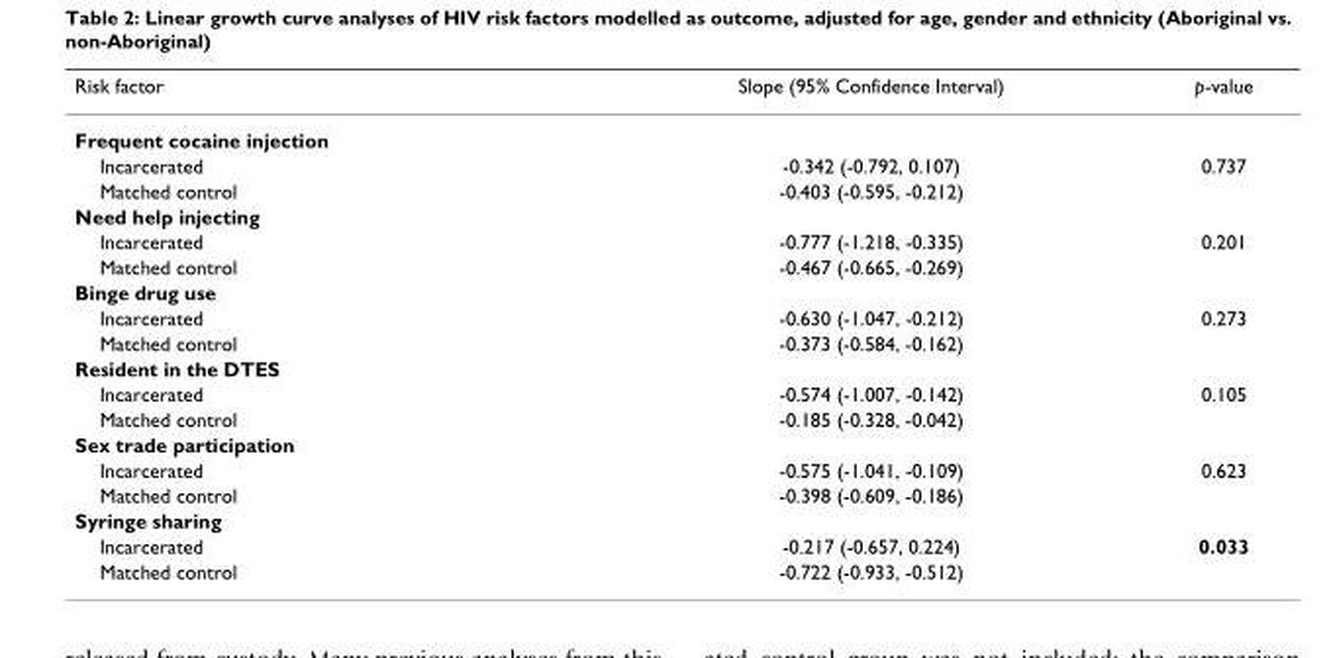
<table><thead><tr><td>Risk factor</td><td>Slope (95% Confidence Interval)</td><td>p-value</td></tr></thead><tbody><tr><td colspan="3">Frequent cocaine injection</td></tr><tr><td>Incarcerated</td><td>-0.342 (-0.792, 0.107)</td><td>0.737</td></tr><tr><td>Matched control</td><td>-0.403 (-0.595, -0.212)</td><td></td></tr><tr><td colspan="3">Need help injecting</td></tr><tr><td>Incarcerated</td><td>-0.777 (-1.218, -0.335)</td><td>0.201</td></tr><tr><td>Matched control</td><td>-0.467 (-0.665, -0.269)</td><td></td></tr><tr><td colspan="3">Binge drug use</td></tr><tr><td>Incarcerated</td><td>-0.630 (-1.047, -0.212)</td><td>0.273</td></tr><tr><td>Matched control</td><td>-0.373 (-0.584, -0.162)</td><td></td></tr><tr><td colspan="3">Resident in the DTES</td></tr><tr><td>Incarcerated</td><td>-0.574 (-1.007, -0.142)</td><td>0.105</td></tr><tr><td>Matched control</td><td>-0.185 (-0.328, -0.042)</td><td></td></tr><tr><td colspan="3">Sex trade participation</td></tr><tr><td>Incarcerated</td><td>-0.575 (-1.041, -0.109)</td><td>0.623</td></tr><tr><td>Matched control</td><td>-0.398 (-0.609, -0.186)</td><td></td></tr><tr><td colspan="3">Syringe sharing</td></tr><tr><td>Incarcerated</td><td>-0.217 (-0.657, 0.224)</td><td>0.033</td></tr><tr><td>Matched control</td><td>-0.722 (-0.933, -0.512)</td><td></td></tr></tbody></table>